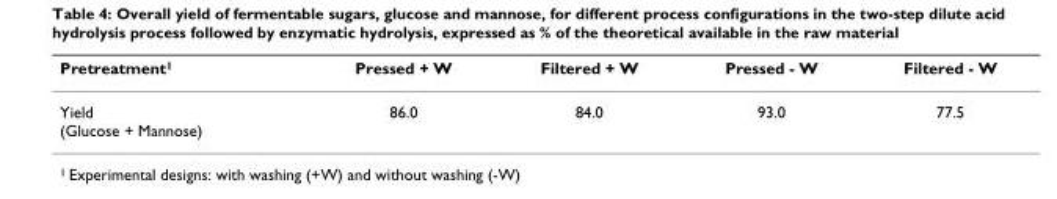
<table><thead><tr><td>Pretreatment<sup>1</sup></td><td>Pressed + W</td><td>Filtered + W</td><td>Pressed - W</td><td>Filtered - W</td></tr></thead><tbody><tr><td>Yield (Glucose + Mannose)</td><td>86.0</td><td>84.0</td><td>93.0</td><td>77.5</td></tr></tbody></table>